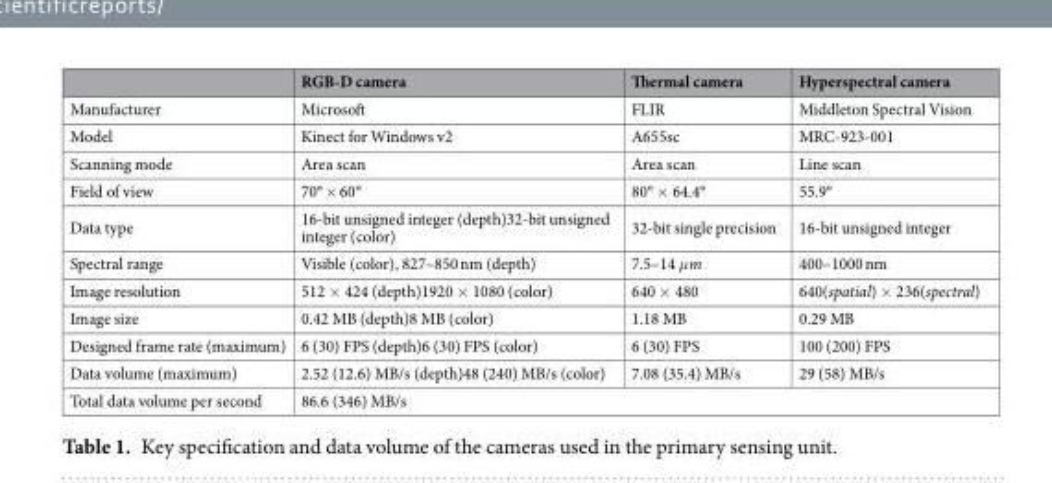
<table><thead><tr><td></td><td>RGB-D camera</td><td>Thermal camera</td><td>Hyperspectral camera</td></tr></thead><tbody><tr><td>Manufacturer</td><td>Microsoft</td><td>FLIR</td><td>Middleton Spectral Vision</td></tr><tr><td>Model</td><td>Kinect for Windows v2</td><td>A655sc</td><td>MRC-923-001</td></tr><tr><td>Scanning mode</td><td>Area scan</td><td>Area scan</td><td>Line scan</td></tr><tr><td>Field of view</td><td>70° × 60°</td><td>80° × 64.4°</td><td>55.9°</td></tr><tr><td>Data type</td><td>16-bit unsigned integer (depth)32-bit unsigned integer (color)</td><td>32-bit single precision</td><td>16-bit unsigned integer</td></tr><tr><td>Spectral range</td><td>Visible (color), 827–850 nm (depth)</td><td>7.5–14 μm</td><td>400–1000 nm</td></tr><tr><td>Image resolution</td><td>512 × 424 (depth)1920 × 1080 (color)</td><td>640 × 480</td><td>640(spatial) × 236(spectral)</td></tr><tr><td>Image size</td><td>0.42 MB (depth)8 MB (color)</td><td>1.18 MB</td><td>0.29 MB</td></tr><tr><td>Designed frame rate (maximum)</td><td>6 (30) FPS (depth)6 (30) FPS (color)</td><td>6 (30) FPS</td><td>100 (200) FPS</td></tr><tr><td>Data volume (maximum)</td><td>2.52 (12.6) MB/s (depth)48 (240) MB/s (color)</td><td>7.08 (35.4) MB/s</td><td>29 (58) MB/s</td></tr><tr><td>Total data volume per second</td><td colspan="3">86.6 (346) MB/s</td></tr></tbody></table>